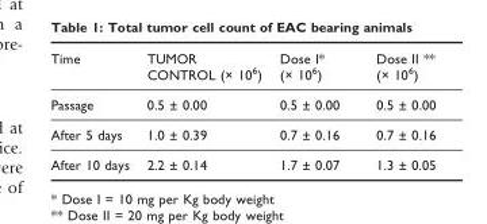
<table><thead><tr><td>Time</td><td>TUMOR CONTROL (× 10<sup>6</sup>)</td><td>Dose I* (× 10<sup>6</sup>)</td><td>Dose II ** (× 10<sup>6</sup>)</td></tr></thead><tbody><tr><td>Passage</td><td>0.5 ± 0.00</td><td>0.5 ± 0.00</td><td>0.5 ± 0.00</td></tr><tr><td>After 5 days</td><td>1.0 ± 0.39</td><td>0.7 ± 0.16</td><td>0.7 ± 0.16</td></tr><tr><td>After 10 days</td><td>2.2 ± 0.14</td><td>1.7 ± 0.07</td><td>1.3 ± 0.05</td></tr></tbody></table>